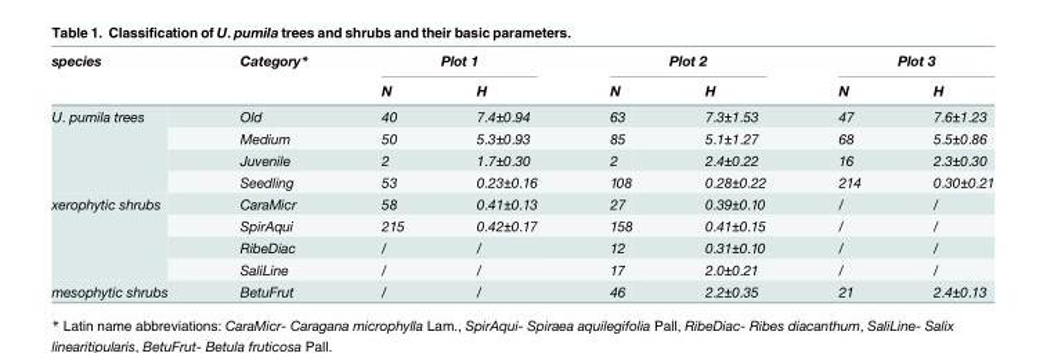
<table><thead><tr><td rowspan="2">species</td><td rowspan="2">Category*</td><td colspan="2">Plot 1</td><td colspan="2">Plot 2</td><td colspan="2">Plot 3</td></tr><tr><td>N</td><td>H</td><td>N</td><td>H</td><td>N</td><td>H</td></tr></thead><tbody><tr><td rowspan="4">U. pumila trees</td><td>Old</td><td>40</td><td>7.4±0.94</td><td>63</td><td>7.3±1.53</td><td>47</td><td>7.6±1.23</td></tr><tr><td>Medium</td><td>50</td><td>5.3±0.93</td><td>85</td><td>5.1±1.27</td><td>68</td><td>5.5±0.86</td></tr><tr><td>Juvenile</td><td>2</td><td>1.7±0.30</td><td>2</td><td>2.4±0.22</td><td>16</td><td>2.3±0.30</td></tr><tr><td>Seedling</td><td>53</td><td>0.23±0.16</td><td>108</td><td>0.28±0.22</td><td>214</td><td>0.30±0.21</td></tr><tr><td rowspan="4">xerophytic shrubs</td><td>CaraMicr</td><td>58</td><td>0.41±0.13</td><td>27</td><td>0.39±0.10</td><td>/</td><td>/</td></tr><tr><td>SpirAqui</td><td>215</td><td>0.42±0.17</td><td>158</td><td>0.41±0.15</td><td>/</td><td>/</td></tr><tr><td>RibeDiac</td><td>/</td><td>/</td><td>12</td><td>0.31±0.10</td><td>/</td><td>/</td></tr><tr><td>SaliLine</td><td>/</td><td>/</td><td>17</td><td>2.0±0.21</td><td>/</td><td>/</td></tr><tr><td>mesophytic shrubs</td><td>BetuFrut</td><td>/</td><td>/</td><td>46</td><td>2.2±0.35</td><td>21</td><td>2.4±0.13</td></tr></tbody></table>